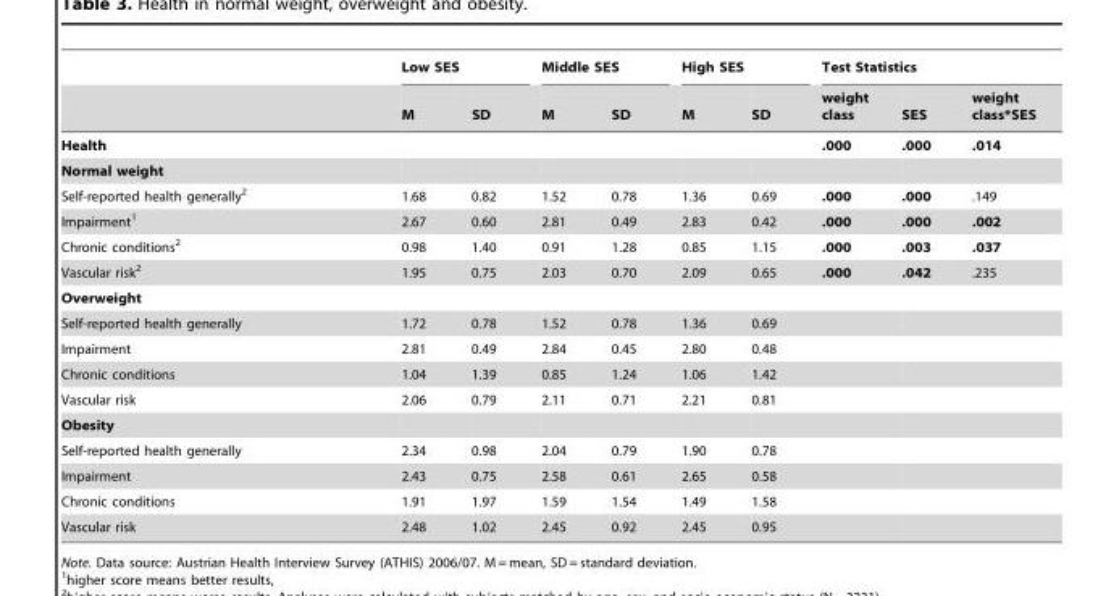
<table><thead><tr><td rowspan="2"></td><td colspan="2">Low SES</td><td colspan="2">Middle SES</td><td colspan="2">High SES</td><td colspan="3">Test Statistics</td></tr><tr><td>M</td><td>SD</td><td>M</td><td>SD</td><td>M</td><td>SD</td><td>weight class</td><td>SES</td><td>weight class*SES</td></tr></thead><tbody><tr><td>Health</td><td></td><td></td><td></td><td></td><td></td><td></td><td>.000</td><td>.000</td><td>.014</td></tr><tr><td colspan="10">Normal weight</td></tr><tr><td>Self-reported health generally<sup>2</sup></td><td>1.68</td><td>0.82</td><td>1.52</td><td>0.78</td><td>1.36</td><td>0.69</td><td>.000</td><td>.000</td><td>.149</td></tr><tr><td>Impairment<sup>1</sup></td><td>2.67</td><td>0.60</td><td>2.81</td><td>0.49</td><td>2.83</td><td>0.42</td><td>.000</td><td>.000</td><td>.002</td></tr><tr><td>Chronic conditions<sup>2</sup></td><td>0.98</td><td>1.40</td><td>0.91</td><td>1.28</td><td>0.85</td><td>1.15</td><td>.000</td><td>.003</td><td>.037</td></tr><tr><td>Vascular risk<sup>2</sup></td><td>1.95</td><td>0.75</td><td>2.03</td><td>0.70</td><td>2.09</td><td>0.65</td><td>.000</td><td>.042</td><td>.235</td></tr><tr><td colspan="10">Overweight</td></tr><tr><td>Self-reported health generally</td><td>1.72</td><td>0.78</td><td>1.52</td><td>0.78</td><td>1.36</td><td>0.69</td><td></td><td></td><td></td></tr><tr><td>Impairment</td><td>2.81</td><td>0.49</td><td>2.84</td><td>0.45</td><td>2.80</td><td>0.48</td><td></td><td></td><td></td></tr><tr><td>Chronic conditions</td><td>1.04</td><td>1.39</td><td>0.85</td><td>1.24</td><td>1.06</td><td>1.42</td><td></td><td></td><td></td></tr><tr><td>Vascular risk</td><td>2.06</td><td>0.79</td><td>2.11</td><td>0.71</td><td>2.21</td><td>0.81</td><td></td><td></td><td></td></tr><tr><td colspan="10">Obesity</td></tr><tr><td>Self-reported health generally</td><td>2.34</td><td>0.98</td><td>2.04</td><td>0.79</td><td>1.90</td><td>0.78</td><td></td><td></td><td></td></tr><tr><td>Impairment</td><td>2.43</td><td>0.75</td><td>2.58</td><td>0.61</td><td>2.65</td><td>0.58</td><td></td><td></td><td></td></tr><tr><td>Chronic conditions</td><td>1.91</td><td>1.97</td><td>1.59</td><td>1.54</td><td>1.49</td><td>1.58</td><td></td><td></td><td></td></tr><tr><td>Vascular risk</td><td>2.48</td><td>1.02</td><td>2.45</td><td>0.92</td><td>2.45</td><td>0.95</td><td></td><td></td><td></td></tr></tbody></table>